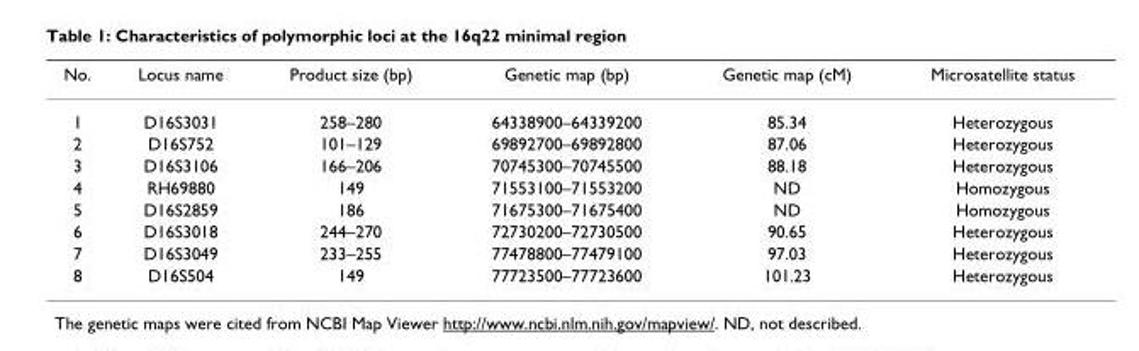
<table><thead><tr><td>No.</td><td>Locus name</td><td>Product size (bp)</td><td>Genetic map (bp)</td><td>Genetic map (cM)</td><td>Microsatellite status</td></tr></thead><tbody><tr><td>1</td><td>D16S3031</td><td>258–280</td><td>64338900–64339200</td><td>85.34</td><td>Heterozygous</td></tr><tr><td>2</td><td>D16S752</td><td>101–129</td><td>69892700–69892800</td><td>87.06</td><td>Heterozygous</td></tr><tr><td>3</td><td>D16S3106</td><td>166–206</td><td>70745300–70745500</td><td>88.18</td><td>Heterozygous</td></tr><tr><td>4</td><td>RH69880</td><td>149</td><td>71553100–71553200</td><td>ND</td><td>Homozygous</td></tr><tr><td>5</td><td>D16S2859</td><td>186</td><td>71675300–71675400</td><td>ND</td><td>Homozygous</td></tr><tr><td>6</td><td>D16S3018</td><td>244–270</td><td>72730200–72730500</td><td>90.65</td><td>Heterozygous</td></tr><tr><td>7</td><td>D16S3049</td><td>233–255</td><td>77478800–77479100</td><td>97.03</td><td>Heterozygous</td></tr><tr><td>8</td><td>D16S504</td><td>149</td><td>77723500–77723600</td><td>101.23</td><td>Heterozygous</td></tr></tbody></table>